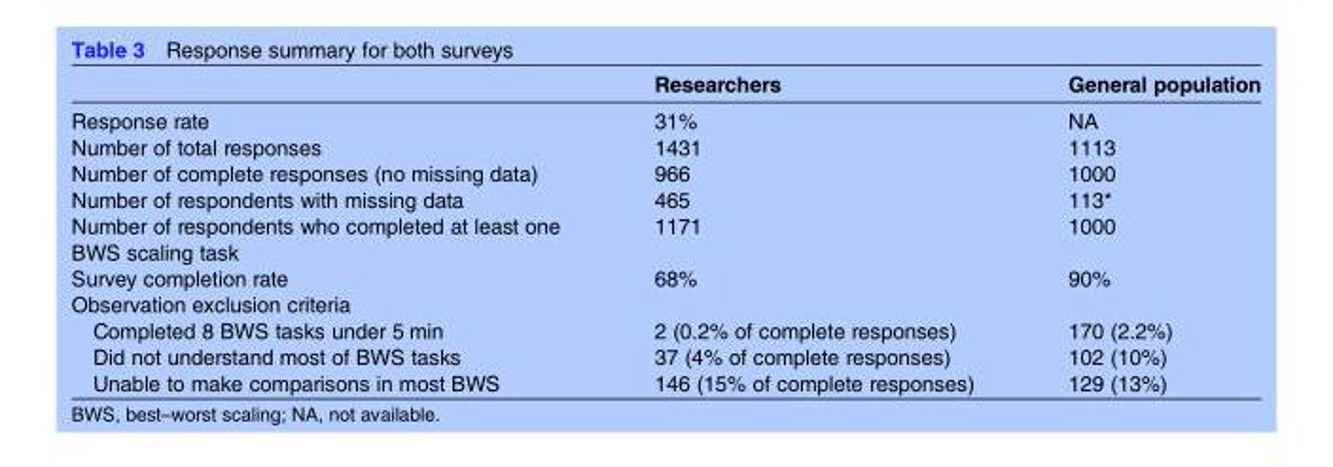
<table><thead><tr><td></td><td>Researchers</td><td>General population</td></tr></thead><tbody><tr><td>Response rate</td><td>31%</td><td>NA</td></tr><tr><td>Number of total responses</td><td>1431</td><td>1113</td></tr><tr><td>Number of complete responses (no missing data)</td><td>966</td><td>1000</td></tr><tr><td>Number of respondents with missing data</td><td>465</td><td>113*</td></tr><tr><td>Number of respondents who completed at least one BWS scaling task</td><td>1171</td><td>1000</td></tr><tr><td>Survey completion rate</td><td>68%</td><td>90%</td></tr><tr><td colspan="3">Observation exclusion criteria</td></tr><tr><td>Completed 8 BWS tasks under 5 min</td><td>2 (0.2% of complete responses)</td><td>170 (2.2%)</td></tr><tr><td>Did not understand most of BWS tasks</td><td>37 (4% of complete responses)</td><td>102 (10%)</td></tr><tr><td>Unable to make comparisons in most BWS</td><td>146 (15% of complete responses)</td><td>129 (13%)</td></tr></tbody></table>